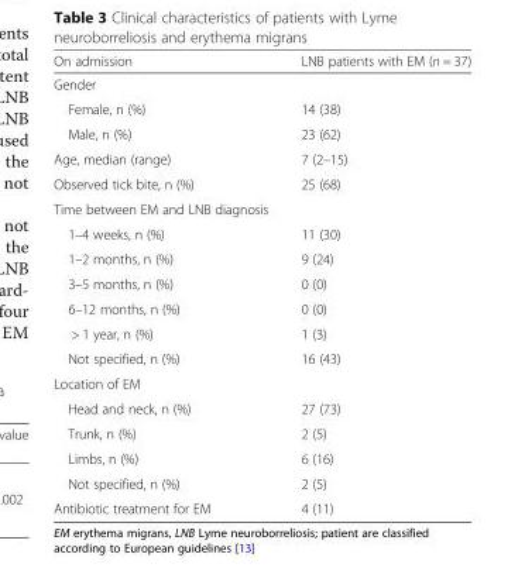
<table><thead><tr><td>On admission</td><td>LNB patients with EM (n = 37)</td></tr></thead><tbody><tr><td colspan="2">Gender</td></tr><tr><td>Female, n (%)</td><td>14 (38)</td></tr><tr><td>Male, n (%)</td><td>23 (62)</td></tr><tr><td>Age, median (range)</td><td>7 (2–15)</td></tr><tr><td>Observed tick bite, n (%)</td><td>25 (68)</td></tr><tr><td colspan="2">Time between EM and LNB diagnosis</td></tr><tr><td>1–4 weeks, n (%)</td><td>11 (30)</td></tr><tr><td>1–2 months, n (%)</td><td>9 (24)</td></tr><tr><td>3–5 months, n (%)</td><td>0 (0)</td></tr><tr><td>6–12 months, n (%)</td><td>0 (0)</td></tr><tr><td>&gt; 1 year, n (%)</td><td>1 (3)</td></tr><tr><td>Not specified, n (%)</td><td>16 (43)</td></tr><tr><td colspan="2">Location of EM</td></tr><tr><td>Head and neck, n (%)</td><td>27 (73)</td></tr><tr><td>Trunk, n (%)</td><td>2 (5)</td></tr><tr><td>Limbs, n (%)</td><td>6 (16)</td></tr><tr><td>Not specified, n (%)</td><td>2 (5)</td></tr><tr><td>Antibiotic treatment for EM</td><td>4 (11)</td></tr></tbody></table>